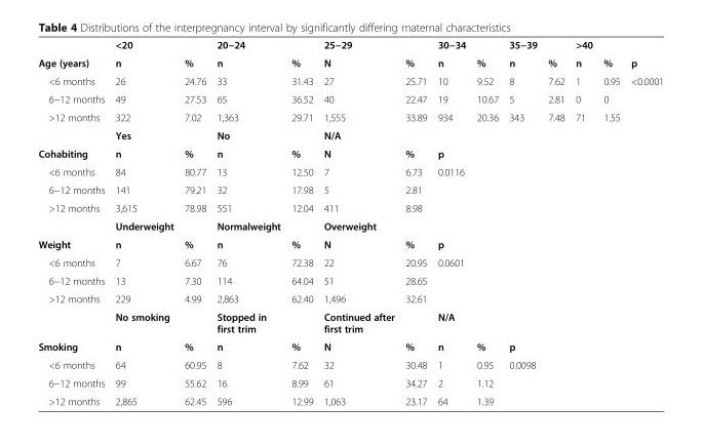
<table><thead><tr><td></td><td>&lt;20</td><td></td><td>20−24</td><td></td><td>25−29</td><td></td><td>30−34</td><td></td><td>35−39</td><td></td><td>&gt;40</td><td></td><td></td></tr></thead><tbody><tr><td>Age (years)</td><td>n</td><td>%</td><td>n</td><td>%</td><td>N</td><td>%</td><td>n</td><td>%</td><td>n</td><td>%</td><td>n</td><td>%</td><td>p</td></tr><tr><td>&lt;6 months</td><td>26</td><td>24.76</td><td>33</td><td>31.43</td><td>27</td><td>25.71</td><td>10</td><td>9.52</td><td>8</td><td>7.62</td><td>1</td><td>0.95</td><td>&lt;0.0001</td></tr><tr><td>6−12 months</td><td>49</td><td>27.53</td><td>65</td><td>36.52</td><td>40</td><td>22.47</td><td>19</td><td>10.67</td><td>5</td><td>2.81</td><td>0</td><td>0</td><td></td></tr><tr><td rowspan="2">&gt;12 months</td><td>322</td><td>7.02</td><td>1,363</td><td>29.71</td><td>1,555</td><td>33.89</td><td>934</td><td>20.36</td><td>343</td><td>7.48</td><td>71</td><td>1.55</td><td></td></tr><tr><td>Yes</td><td></td><td>No</td><td></td><td>N/A</td><td></td><td></td><td></td><td></td><td></td><td></td><td></td><td></td></tr><tr><td>Cohabiting</td><td>n</td><td>%</td><td>n</td><td>%</td><td>N</td><td>%</td><td>p</td><td></td><td></td><td></td><td></td><td></td><td></td></tr><tr><td>&lt;6 months</td><td>84</td><td>80.77</td><td>13</td><td>12.50</td><td>7</td><td>6.73</td><td>0.0116</td><td></td><td></td><td></td><td></td><td></td><td></td></tr><tr><td>6−12 months</td><td>141</td><td>79.21</td><td>32</td><td>17.98</td><td>5</td><td>2.81</td><td></td><td></td><td></td><td></td><td></td><td></td><td></td></tr><tr><td rowspan="2">&gt;12 months</td><td>3,615</td><td>78.98</td><td>551</td><td>12.04</td><td>411</td><td>8.98</td><td></td><td></td><td></td><td></td><td></td><td></td><td></td></tr><tr><td>Underweight</td><td></td><td>Normalweight</td><td></td><td>Overweight</td><td></td><td></td><td></td><td></td><td></td><td></td><td></td><td></td></tr><tr><td>Weight</td><td>n</td><td>%</td><td>n</td><td>%</td><td>N</td><td>%</td><td>p</td><td></td><td></td><td></td><td></td><td></td><td></td></tr><tr><td>&lt;6 months</td><td>7</td><td>6.67</td><td>76</td><td>72.38</td><td>22</td><td>20.95</td><td>0.0601</td><td></td><td></td><td></td><td></td><td></td><td></td></tr><tr><td>6−12 months</td><td>13</td><td>7.30</td><td>114</td><td>64.04</td><td>51</td><td>28.65</td><td></td><td></td><td></td><td></td><td></td><td></td><td></td></tr><tr><td rowspan="2">&gt;12 months</td><td>229</td><td>4.99</td><td>2,863</td><td>62.40</td><td>1,496</td><td>32.61</td><td></td><td></td><td></td><td></td><td></td><td></td><td></td></tr><tr><td>No smoking</td><td></td><td>Stopped in first trim</td><td></td><td>Continued after first trim</td><td></td><td>N/A</td><td></td><td></td><td></td><td></td><td></td><td></td></tr><tr><td>Smoking</td><td>n</td><td>%</td><td>n</td><td>%</td><td>N</td><td>%</td><td>n</td><td>%</td><td>p</td><td></td><td></td><td></td><td></td></tr><tr><td>&lt;6 months</td><td>64</td><td>60.95</td><td>8</td><td>7.62</td><td>32</td><td>30.48</td><td>1</td><td>0.95</td><td>0.0098</td><td></td><td></td><td></td><td></td></tr><tr><td>6−12 months</td><td>99</td><td>55.62</td><td>16</td><td>8.99</td><td>61</td><td>34.27</td><td>2</td><td>1.12</td><td></td><td></td><td></td><td></td><td></td></tr><tr><td>&gt;12 months</td><td>2,865</td><td>62.45</td><td>596</td><td>12.99</td><td>1,063</td><td>23.17</td><td>64</td><td>1.39</td><td></td><td></td><td></td><td></td><td></td></tr></tbody></table>